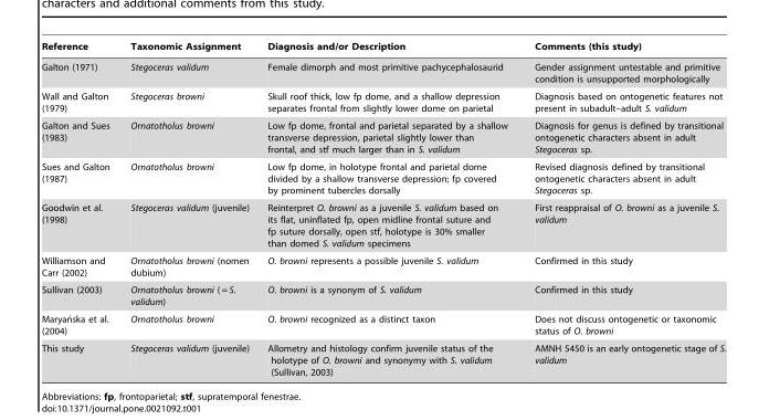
<table><thead><tr><td>Reference</td><td>Taxonomic Assignment</td><td>Diagnosis and/or Description</td><td>Comments (this study)</td></tr></thead><tbody><tr><td>Galton (1971)</td><td>Stegoceras validum</td><td>Female dimorph and most primitive pachycephalosaurid</td><td>Gender assignment untestable and primitive condition is unsupported morphologically</td></tr><tr><td>Wall and Galton (1979)</td><td>Stegoceras browni</td><td>Skull roof thick, low fp dome, and a shallow depression separates frontal from slightly lower dome on parietal</td><td>Diagnosis based on ontogenetic features not present in subadult–adult S. validum</td></tr><tr><td>Galton and Sues (1983)</td><td>Ornatotholus browni</td><td>Low fp dome, frontal and parietal separated by a shallow transverse depression, parietal slightly lower than frontal, and stf much larger than in S. validum</td><td>Diagnosis for genus is defined by transitional ontogenetic characters absent in adult Stegoceras sp.</td></tr><tr><td>Sues and Galton (1987)</td><td>Ornatotholus browni</td><td>Low fp dome, in holotype frontal and parietal dome divided by a shallow transverse depression; fp covered by prominent tubercles dorsally</td><td>Revised diagnosis defined by transitional ontogenetic characters absent in adult Stegoceras sp.</td></tr><tr><td>Goodwin et al. (1998)</td><td>Stegoceras validum (juvenile)</td><td>Reinterpret O. browni as a juvenile S. validum based on its flat, uninflated fp, open midline frontal suture and fp suture dorsally, open stf, holotype is 30% smaller than domed S. validum specimens</td><td>First reappraisal of O. browni as a juvenile S. validum</td></tr><tr><td>Williamson and Carr (2002)</td><td>Ornatotholus browni (nomen dubium)</td><td>O. browni represents a possible juvenile S. validum</td><td>Confirmed in this study</td></tr><tr><td>Sullivan (2003)</td><td>Ornatotholus browni ( = S. validum)</td><td>O. browni is a synonym of S. validum</td><td>Confirmed in this study</td></tr><tr><td>Maryan´ska et al. (2004)</td><td>Ornatotholus browni</td><td>O. browni recognized as a distinct taxon</td><td>Does not discuss ontogenetic or taxonomic status of O. browni</td></tr><tr><td>This study</td><td>Stegoceras validum (juvenile)</td><td>Allometry and histology confirm juvenile status of the holotype of O. browni and synonymy with S. validum (Sullivan, 2003)</td><td>AMNH 5450 is an early ontogenetic stage of S. validum</td></tr></tbody></table>